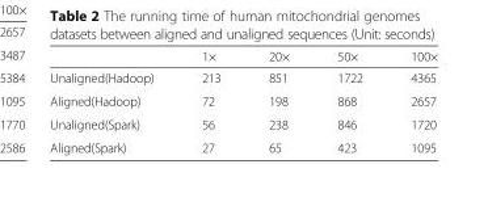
<table><thead><tr><td></td><td>1×</td><td>20×</td><td>50×</td><td>100×</td></tr></thead><tbody><tr><td>Unaligned(Hadoop)</td><td>213</td><td>851</td><td>1722</td><td>4365</td></tr><tr><td>Aligned(Hadoop)</td><td>72</td><td>198</td><td>868</td><td>2657</td></tr><tr><td>Unaligned(Spark)</td><td>56</td><td>238</td><td>846</td><td>1720</td></tr><tr><td>Aligned(Spark)</td><td>27</td><td>65</td><td>423</td><td>1095</td></tr></tbody></table>